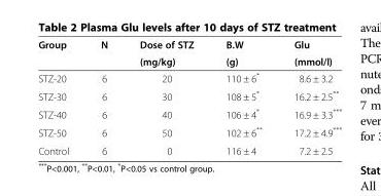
<table><thead><tr><td rowspan="2">Group</td><td rowspan="2">N</td><td rowspan="2">Dose of STZ (mg/kg)</td><td rowspan="2">B.W (g)</td><td rowspan="2">Glu (mmol/l)</td></tr><tr></tr></thead><tbody><tr><td>STZ-20</td><td>6</td><td>20</td><td>110 ± 6*</td><td>8.6 ± 3.2</td></tr><tr><td>STZ-30</td><td>6</td><td>30</td><td>108 ± 5*</td><td>16.2 ± 2.5**</td></tr><tr><td>STZ-40</td><td>6</td><td>40</td><td>106 ± 4*</td><td>16.9 ± 3.3***</td></tr><tr><td>STZ-50</td><td>6</td><td>50</td><td>102 ± 6**</td><td>17.2 ± 4.9***</td></tr><tr><td>Control</td><td>6</td><td>0</td><td>116 ± 4</td><td>7.2 ± 2.5</td></tr></tbody></table>